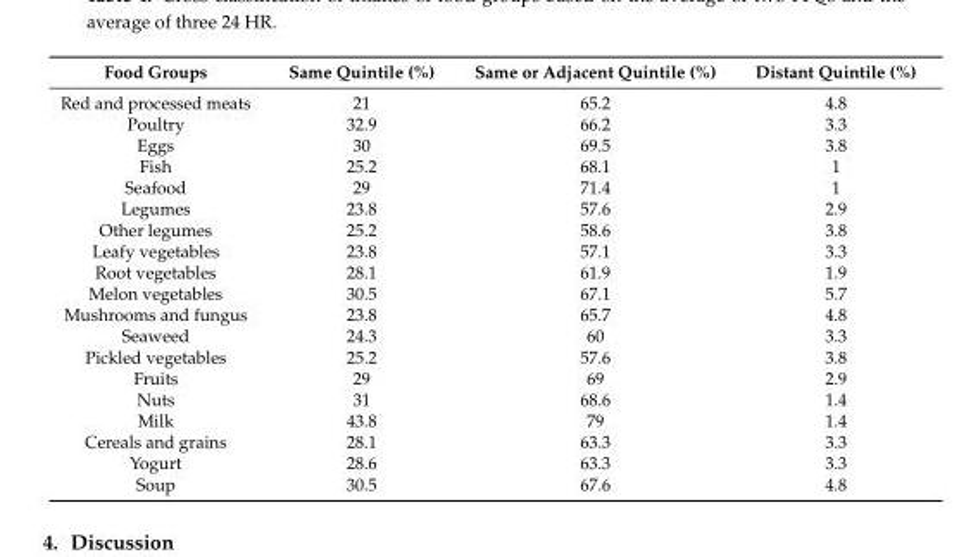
<table><thead><tr><td>Food Groups</td><td>Same Quintile (%)</td><td>Same or Adjacent Quintile (%)</td><td>Distant Quintile (%)</td></tr></thead><tbody><tr><td>Red and processed meats</td><td>21</td><td>65.2</td><td>4.8</td></tr><tr><td>Poultry</td><td>32.9</td><td>66.2</td><td>3.3</td></tr><tr><td>Eggs</td><td>30</td><td>69.5</td><td>3.8</td></tr><tr><td>Fish</td><td>25.2</td><td>68.1</td><td>1</td></tr><tr><td>Seafood</td><td>29</td><td>71.4</td><td>1</td></tr><tr><td>Legumes</td><td>23.8</td><td>57.6</td><td>2.9</td></tr><tr><td>Other legumes</td><td>25.2</td><td>58.6</td><td>3.8</td></tr><tr><td>Leafy vegetables</td><td>23.8</td><td>57.1</td><td>3.3</td></tr><tr><td>Root vegetables</td><td>28.1</td><td>61.9</td><td>1.9</td></tr><tr><td>Melon vegetables</td><td>30.5</td><td>67.1</td><td>5.7</td></tr><tr><td>Mushrooms and fungus</td><td>23.8</td><td>65.7</td><td>4.8</td></tr><tr><td>Seaweed</td><td>24.3</td><td>60</td><td>3.3</td></tr><tr><td>Pickled vegetables</td><td>25.2</td><td>57.6</td><td>3.8</td></tr><tr><td>Fruits</td><td>29</td><td>69</td><td>2.9</td></tr><tr><td>Nuts</td><td>31</td><td>68.6</td><td>1.4</td></tr><tr><td>Milk</td><td>43.8</td><td>79</td><td>1.4</td></tr><tr><td>Cereals and grains</td><td>28.1</td><td>63.3</td><td>3.3</td></tr><tr><td>Yogurt</td><td>28.6</td><td>63.3</td><td>3.3</td></tr><tr><td>Soup</td><td>30.5</td><td>67.6</td><td>4.8</td></tr></tbody></table>